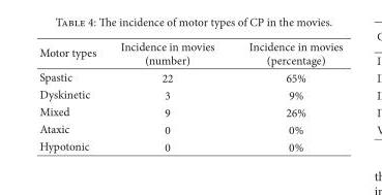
<table><thead><tr><td>Motor types</td><td>Incidence in movies (number)</td><td>Incidence in movies (percentage)</td></tr></thead><tbody><tr><td>Spastic</td><td>22</td><td>65%</td></tr><tr><td>Dyskinetic</td><td>3</td><td>9%</td></tr><tr><td>Mixed</td><td>9</td><td>26%</td></tr><tr><td>Ataxic</td><td>0</td><td>0%</td></tr><tr><td>Hypotonic</td><td>0</td><td>0%</td></tr></tbody></table>